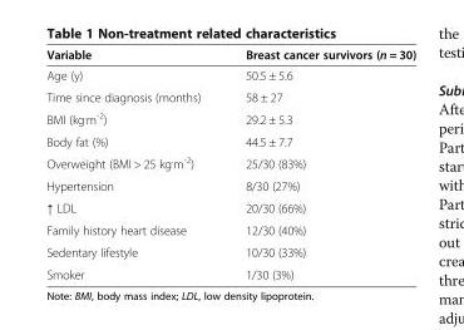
<table><thead><tr><td>Variable</td><td>Breast cancer survivors (n = 30)</td></tr></thead><tbody><tr><td>Age (y)</td><td>50.5 ± 5.6</td></tr><tr><td>Time since diagnosis (months)</td><td>58 ± 27</td></tr><tr><td>BMI (kg<sup>.</sup>m<sup>-2</sup>)</td><td>29.2 ± 5.3</td></tr><tr><td>Body fat (%)</td><td>44.5 ± 7.7</td></tr><tr><td>Overweight (BMI &gt; 25 kg<sup>.</sup>m<sup>-2</sup>)</td><td>25/30 (83%)</td></tr><tr><td>Hypertension</td><td>8/30 (27%)</td></tr><tr><td>↑ LDL</td><td>20/30 (66%)</td></tr><tr><td>Family history heart disease</td><td>12/30 (40%)</td></tr><tr><td>Sedentary lifestyle</td><td>10/30 (33%)</td></tr><tr><td>Smoker</td><td>1/30 (3%)</td></tr></tbody></table>